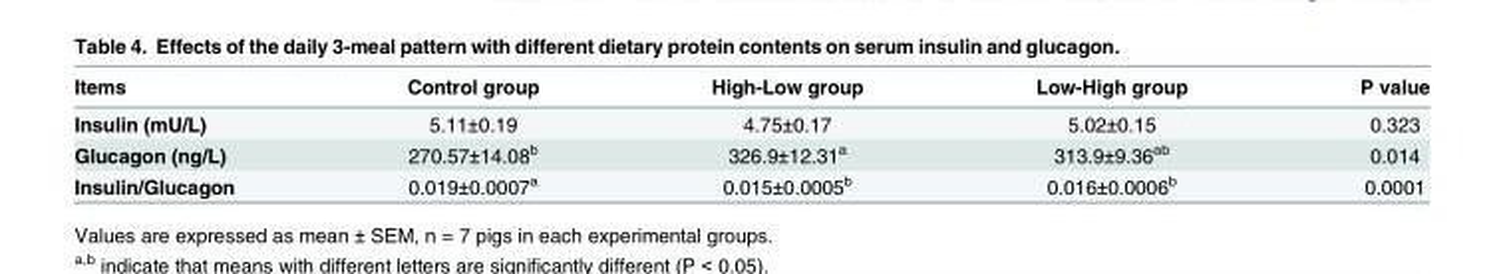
<table><thead><tr><td>Items</td><td>Control group</td><td>High-Low group</td><td>Low-High group</td><td>P value</td></tr></thead><tbody><tr><td>Insulin (mU/L)</td><td>5.11±0.19</td><td>4.75±0.17</td><td>5.02±0.15</td><td>0.323</td></tr><tr><td>Glucagon (ng/L)</td><td>270.57±14.08<sup>b</sup></td><td>326.9±12.31<sup>a</sup></td><td>313.9±9.36<sup>ab</sup></td><td>0.014</td></tr><tr><td>Insulin/Glucagon</td><td>0.019±0.0007<sup>a</sup></td><td>0.015±0.0005<sup>b</sup></td><td>0.016±0.0006<sup>b</sup></td><td>0.0001</td></tr></tbody></table>